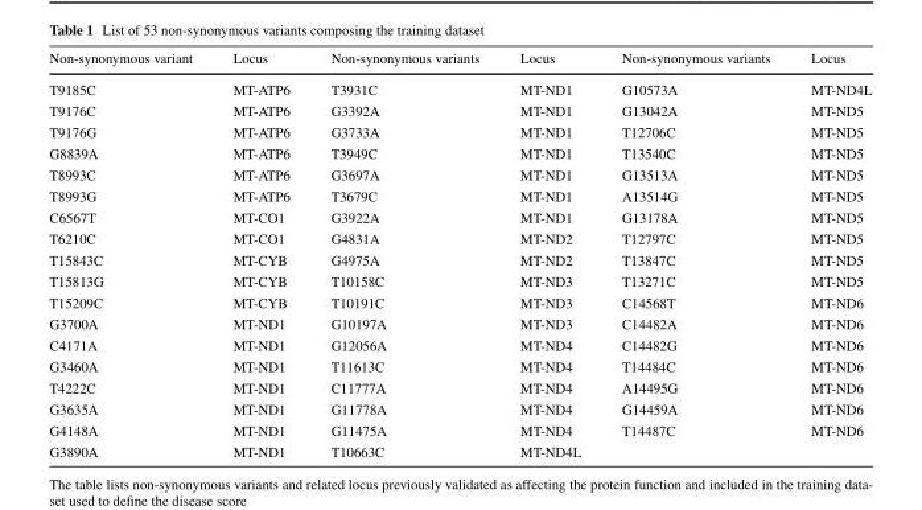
<table><thead><tr><td>Non-synonymous variant</td><td>Locus</td><td>Non-synonymous variants</td><td>Locus</td><td>Non-synonymous variants</td><td>Locus</td></tr></thead><tbody><tr><td>T9185C</td><td>MT-ATP6</td><td>T3931C</td><td>MT-ND1</td><td>G10573A</td><td>MT-ND4L</td></tr><tr><td>T9176C</td><td>MT-ATP6</td><td>G3392A</td><td>MT-ND1</td><td>G13042A</td><td>MT-ND5</td></tr><tr><td>T9176G</td><td>MT-ATP6</td><td>G3733A</td><td>MT-ND1</td><td>T12706C</td><td>MT-ND5</td></tr><tr><td>G8839A</td><td>MT-ATP6</td><td>T3949C</td><td>MT-ND1</td><td>T13540C</td><td>MT-ND5</td></tr><tr><td>T8993C</td><td>MT-ATP6</td><td>G3697A</td><td>MT-ND1</td><td>G13513A</td><td>MT-ND5</td></tr><tr><td>T8993G</td><td>MT-ATP6</td><td>T3679C</td><td>MT-ND1</td><td>A13514G</td><td>MT-ND5</td></tr><tr><td>C6567T</td><td>MT-CO1</td><td>G3922A</td><td>MT-ND1</td><td>G13178A</td><td>MT-ND5</td></tr><tr><td>T6210C</td><td>MT-CO1</td><td>G4831A</td><td>MT-ND2</td><td>T12797C</td><td>MT-ND5</td></tr><tr><td>T15843C</td><td>MT-CYB</td><td>G4975A</td><td>MT-ND2</td><td>T13847C</td><td>MT-ND5</td></tr><tr><td>T15813G</td><td>MT-CYB</td><td>T10158C</td><td>MT-ND3</td><td>T13271C</td><td>MT-ND5</td></tr><tr><td>T15209C</td><td>MT-CYB</td><td>T10191C</td><td>MT-ND3</td><td>C14568T</td><td>MT-ND6</td></tr><tr><td>G3700A</td><td>MT-ND1</td><td>G10197A</td><td>MT-ND3</td><td>C14482A</td><td>MT-ND6</td></tr><tr><td>C4171A</td><td>MT-ND1</td><td>G12056A</td><td>MT-ND4</td><td>C14482G</td><td>MT-ND6</td></tr><tr><td>G3460A</td><td>MT-ND1</td><td>T11613C</td><td>MT-ND4</td><td>T14484C</td><td>MT-ND6</td></tr><tr><td>T4222C</td><td>MT-ND1</td><td>C11777A</td><td>MT-ND4</td><td>A14495G</td><td>MT-ND6</td></tr><tr><td>G3635A</td><td>MT-ND1</td><td>G11778A</td><td>MT-ND4</td><td>G14459A</td><td>MT-ND6</td></tr><tr><td>G4148A</td><td>MT-ND1</td><td>G11475A</td><td>MT-ND4</td><td>T14487C</td><td>MT-ND6</td></tr><tr><td>G3890A</td><td>MT-ND1</td><td>T10663C</td><td>MT-ND4L</td><td></td><td></td></tr></tbody></table>